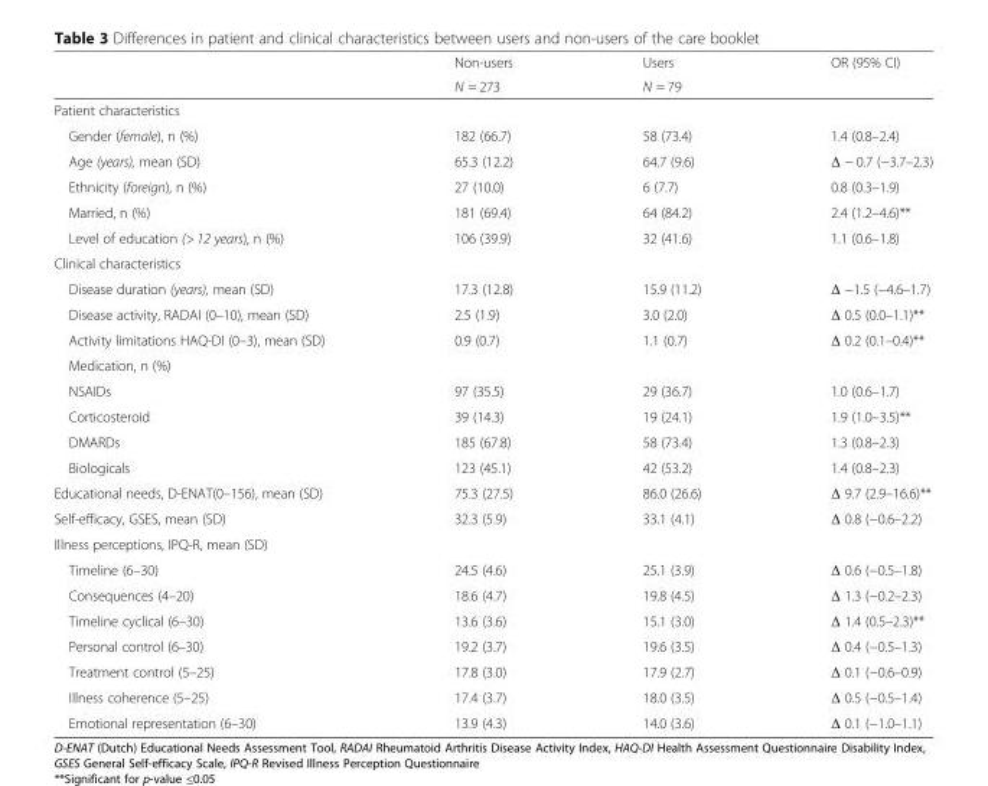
<table><thead><tr><td rowspan="2"></td><td rowspan="2">Non-users N = 273</td><td rowspan="2">Users N = 79</td><td rowspan="2">OR (95% CI)</td></tr><tr></tr></thead><tbody><tr><td colspan="4">Patient characteristics</td></tr><tr><td>Gender (female), n (%)</td><td>182 (66.7)</td><td>58 (73.4)</td><td>1.4 (0.8–2.4)</td></tr><tr><td>Age (years), mean (SD)</td><td>65.3 (12.2)</td><td>64.7 (9.6)</td><td>Δ − 0.7 (−3.7–2.3)</td></tr><tr><td>Ethnicity (foreign), n (%)</td><td>27 (10.0)</td><td>6 (7.7)</td><td>0.8 (0.3–1.9)</td></tr><tr><td>Married, n (%)</td><td>181 (69.4)</td><td>64 (84.2)</td><td>2.4 (1.2–4.6)**</td></tr><tr><td>Level of education (&gt; 12 years), n (%)</td><td>106 (39.9)</td><td>32 (41.6)</td><td>1.1 (0.6–1.8)</td></tr><tr><td colspan="4">Clinical characteristics</td></tr><tr><td>Disease duration (years), mean (SD)</td><td>17.3 (12.8)</td><td>15.9 (11.2)</td><td>Δ −1.5 (−4.6–1.7)</td></tr><tr><td>Disease activity, RADAI (0–10), mean (SD)</td><td>2.5 (1.9)</td><td>3.0 (2.0)</td><td>Δ 0.5 (0.0–1.1)**</td></tr><tr><td>Activity limitations HAQ-DI (0–3), mean (SD)</td><td>0.9 (0.7)</td><td>1.1 (0.7)</td><td>Δ 0.2 (0.1–0.4)**</td></tr><tr><td colspan="4">Medication, n (%)</td></tr><tr><td>NSAIDs</td><td>97 (35.5)</td><td>29 (36.7)</td><td>1.0 (0.6–1.7)</td></tr><tr><td>Corticosteroid</td><td>39 (14.3)</td><td>19 (24.1)</td><td>1.9 (1.0–3.5)**</td></tr><tr><td>DMARDs</td><td>185 (67.8)</td><td>58 (73.4)</td><td>1.3 (0.8–2.3)</td></tr><tr><td>Biologicals</td><td>123 (45.1)</td><td>42 (53.2)</td><td>1.4 (0.8–2.3)</td></tr><tr><td>Educational needs, D-ENAT(0–156), mean (SD)</td><td>75.3 (27.5)</td><td>86.0 (26.6)</td><td>Δ 9.7 (2.9–16.6)**</td></tr><tr><td>Self-efficacy, GSES, mean (SD)</td><td>32.3 (5.9)</td><td>33.1 (4.1)</td><td>Δ 0.8 (−0.6–2.2)</td></tr><tr><td colspan="4">Illness perceptions, IPQ-R, mean (SD)</td></tr><tr><td>Timeline (6–30)</td><td>24.5 (4.6)</td><td>25.1 (3.9)</td><td>Δ 0.6 (−0.5–1.8)</td></tr><tr><td>Consequences (4–20)</td><td>18.6 (4.7)</td><td>19.8 (4.5)</td><td>Δ 1.3 (−0.2–2.3)</td></tr><tr><td>Timeline cyclical (6–30)</td><td>13.6 (3.6)</td><td>15.1 (3.0)</td><td>Δ 1.4 (0.5–2.3)**</td></tr><tr><td>Personal control (6–30)</td><td>19.2 (3.7)</td><td>19.6 (3.5)</td><td>Δ 0.4 (−0.5–1.3)</td></tr><tr><td>Treatment control (5–25)</td><td>17.8 (3.0)</td><td>17.9 (2.7)</td><td>Δ 0.1 (−0.6–0.9)</td></tr><tr><td>Illness coherence (5–25)</td><td>17.4 (3.7)</td><td>18.0 (3.5)</td><td>Δ 0.5 (−0.5–1.4)</td></tr><tr><td>Emotional representation (6–30)</td><td>13.9 (4.3)</td><td>14.0 (3.6)</td><td>Δ 0.1 (−1.0–1.1)</td></tr></tbody></table>